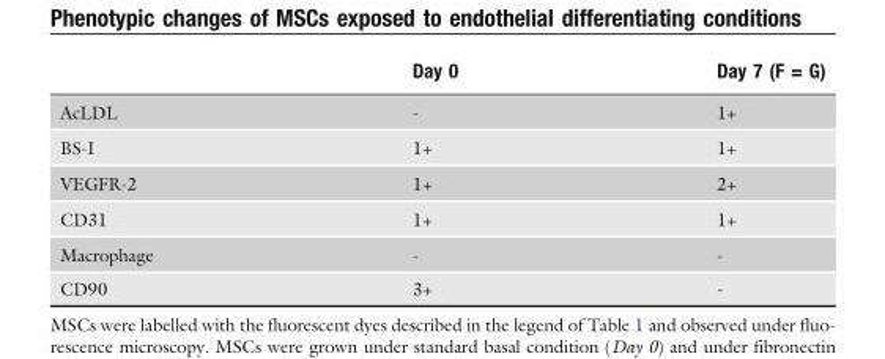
<table><thead><tr><td></td><td>Day 0</td><td>Day 7 (F = G)</td></tr></thead><tbody><tr><td>AcLDL</td><td>-</td><td>1+</td></tr><tr><td>BS-I</td><td>1+</td><td>1+</td></tr><tr><td>VEGFR-2</td><td>1+</td><td>2+</td></tr><tr><td>CD31</td><td>1+</td><td>1+</td></tr><tr><td>Macrophage</td><td>-</td><td>-</td></tr><tr><td>CD90</td><td>3+</td><td>-</td></tr></tbody></table>